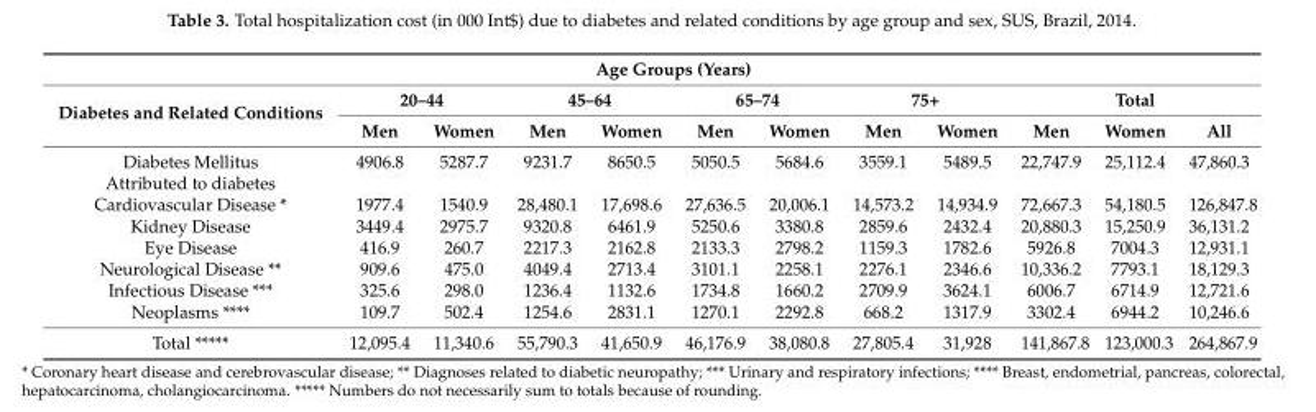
<table><thead><tr><td rowspan="3">Diabetes and Related Conditions</td><td colspan="8">Age Groups (Years)</td><td></td><td></td><td></td></tr><tr><td colspan="2">20–44</td><td colspan="2">45–64</td><td colspan="2">65–74</td><td colspan="2">75+</td><td colspan="3">Total</td></tr><tr><td>Men</td><td>Women</td><td>Men</td><td>Women</td><td>Men</td><td>Women</td><td>Men</td><td>Women</td><td>Men</td><td>Women</td><td>All</td></tr></thead><tbody><tr><td>Diabetes Mellitus</td><td>4906.8</td><td>5287.7</td><td>9231.7</td><td>8650.5</td><td>5050.5</td><td>5684.6</td><td>3559.1</td><td>5489.5</td><td>22,747.9</td><td>25,112.4</td><td>47,860.3</td></tr><tr><td colspan="12">Attributed to diabetes</td></tr><tr><td>Cardiovascular Disease *</td><td>1977.4</td><td>1540.9</td><td>28,480.1</td><td>17,698.6</td><td>27,636.5</td><td>20,006.1</td><td>14,573.2</td><td>14,934.9</td><td>72,667.3</td><td>54,180.5</td><td>126,847.8</td></tr><tr><td>Kidney Disease</td><td>3449.4</td><td>2975.7</td><td>9320.8</td><td>6461.9</td><td>5250.6</td><td>3380.8</td><td>2859.6</td><td>2432.4</td><td>20,880.3</td><td>15,250.9</td><td>36,131.2</td></tr><tr><td>Eye Disease</td><td>416.9</td><td>260.7</td><td>2217.3</td><td>2162.8</td><td>2133.3</td><td>2798.2</td><td>1159.3</td><td>1782.6</td><td>5926.8</td><td>7004.3</td><td>12,931.1</td></tr><tr><td>Neurological Disease **</td><td>909.6</td><td>475.0</td><td>4049.4</td><td>2713.4</td><td>3101.1</td><td>2258.1</td><td>2276.1</td><td>2346.6</td><td>10,336.2</td><td>7793.1</td><td>18,129.3</td></tr><tr><td>Infectious Disease ***</td><td>325.6</td><td>298.0</td><td>1236.4</td><td>1132.6</td><td>1734.8</td><td>1660.2</td><td>2709.9</td><td>3624.1</td><td>6006.7</td><td>6714.9</td><td>12,721.6</td></tr><tr><td>Neoplasms ****</td><td>109.7</td><td>502.4</td><td>1254.6</td><td>2831.1</td><td>1270.1</td><td>2292.8</td><td>668.2</td><td>1317.9</td><td>3302.4</td><td>6944.2</td><td>10,246.6</td></tr><tr><td>Total *****</td><td>12,095.4</td><td>11,340.6</td><td>55,790.3</td><td>41,650.9</td><td>46,176.9</td><td>38,080.8</td><td>27,805.4</td><td>31,928</td><td>141,867.8</td><td>123,000.3</td><td>264,867.9</td></tr></tbody></table>